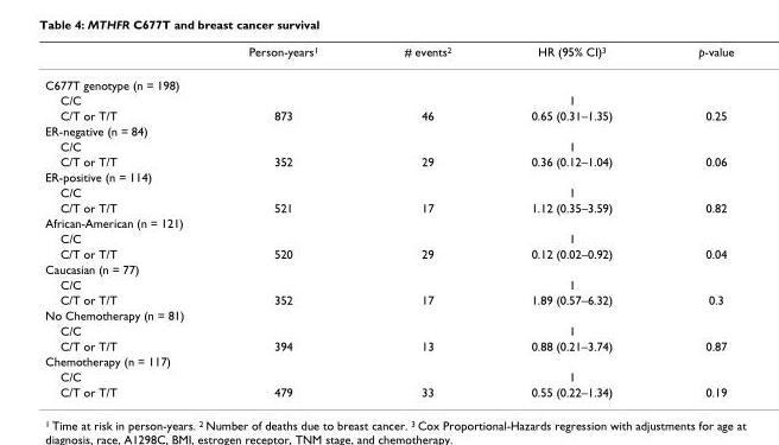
<table><thead><tr><td></td><td>Person-years1</td><td># events2</td><td>HR (95% CI)3</td><td>p-value</td></tr></thead><tbody><tr><td colspan="5">C677T genotype (n = 198)</td></tr><tr><td>C/C</td><td></td><td></td><td>1</td><td></td></tr><tr><td>C/T or T/T</td><td>873</td><td>46</td><td>0.65 (0.31–1.35)</td><td>0.25</td></tr><tr><td colspan="5">ER-negative (n = 84)</td></tr><tr><td>C/C</td><td></td><td></td><td>1</td><td></td></tr><tr><td>C/T or T/T</td><td>352</td><td>29</td><td>0.36 (0.12–1.04)</td><td>0.06</td></tr><tr><td colspan="5">ER-positive (n = 114)</td></tr><tr><td>C/C</td><td></td><td></td><td>1</td><td></td></tr><tr><td>C/T or T/T</td><td>521</td><td>17</td><td>1.12 (0.35–3.59)</td><td>0.82</td></tr><tr><td colspan="5">African-American (n = 121)</td></tr><tr><td>C/C</td><td></td><td></td><td>1</td><td></td></tr><tr><td>C/T or T/T</td><td>520</td><td>29</td><td>0.12 (0.02–0.92)</td><td>0.04</td></tr><tr><td colspan="5">Caucasian (n = 77)</td></tr><tr><td>C/C</td><td></td><td></td><td>1</td><td></td></tr><tr><td>C/T or T/T</td><td>352</td><td>17</td><td>1.89 (0.57–6.32)</td><td>0.3</td></tr><tr><td colspan="5">No Chemotherapy (n = 81)</td></tr><tr><td>C/C</td><td></td><td></td><td>1</td><td></td></tr><tr><td>C/T or T/T</td><td>394</td><td>13</td><td>0.88 (0.21–3.74)</td><td>0.87</td></tr><tr><td colspan="5">Chemotherapy (n = 117)</td></tr><tr><td>C/C</td><td></td><td></td><td>1</td><td></td></tr><tr><td>C/T or T/T</td><td>479</td><td>33</td><td>0.55 (0.22–1.34)</td><td>0.19</td></tr></tbody></table>